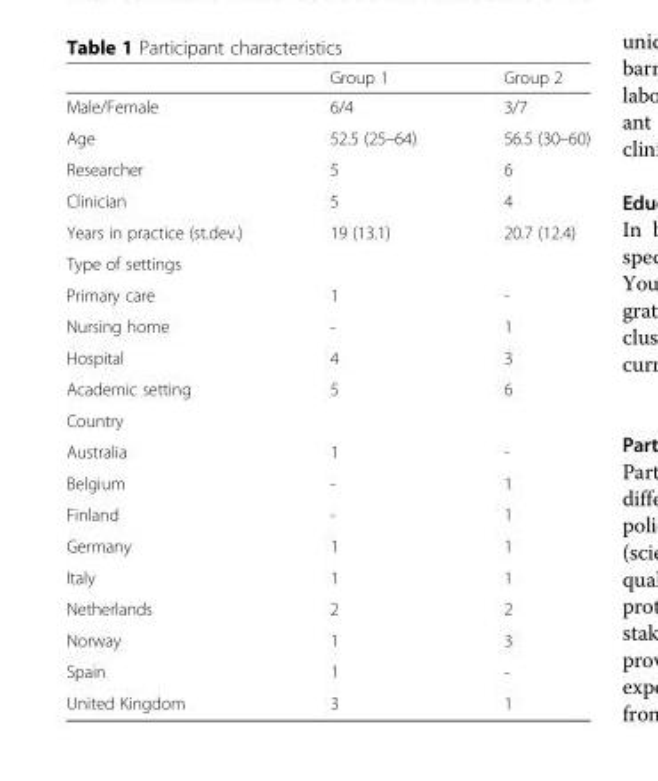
<table><thead><tr><td></td><td>Group 1</td><td>Group 2</td></tr></thead><tbody><tr><td>Male/Female</td><td>6/4</td><td>3/7</td></tr><tr><td>Age</td><td>52.5 (25–64)</td><td>56.5 (30–60)</td></tr><tr><td>Researcher</td><td>5</td><td>6</td></tr><tr><td>Clinician</td><td>5</td><td>4</td></tr><tr><td>Years in practice (st.dev.)</td><td>19 (13.1)</td><td>20.7 (12.4)</td></tr><tr><td colspan="3">Type of settings</td></tr><tr><td>Primary care</td><td>1</td><td>-</td></tr><tr><td>Nursing home</td><td>-</td><td>1</td></tr><tr><td>Hospital</td><td>4</td><td>3</td></tr><tr><td>Academic setting</td><td>5</td><td>6</td></tr><tr><td colspan="3">Country</td></tr><tr><td>Australia</td><td>1</td><td>-</td></tr><tr><td>Belgium</td><td>-</td><td>1</td></tr><tr><td>Finland</td><td>-</td><td>1</td></tr><tr><td>Germany</td><td>1</td><td>1</td></tr><tr><td>Italy</td><td>1</td><td>1</td></tr><tr><td>Netherlands</td><td>2</td><td>2</td></tr><tr><td>Norway</td><td>1</td><td>3</td></tr><tr><td>Spain</td><td>1</td><td>-</td></tr><tr><td>United Kingdom</td><td>3</td><td>1</td></tr></tbody></table>